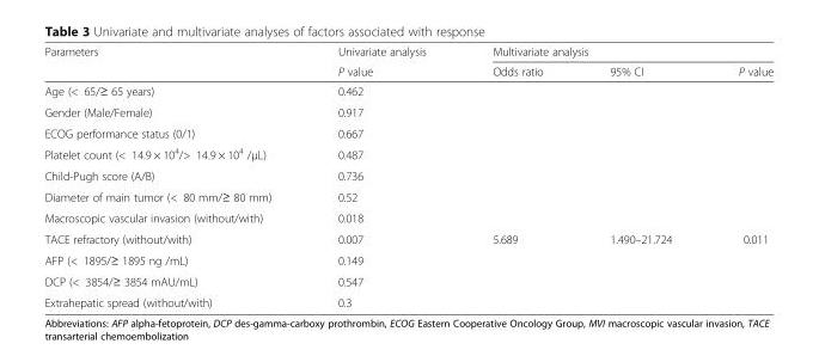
<table><thead><tr><td rowspan="2">Parameters</td><td rowspan="2">Univariate analysis P value</td><td colspan="3">Multivariate analysis</td></tr><tr><td>Odds ratio</td><td>95% CI</td><td>P value</td></tr></thead><tbody><tr><td>Age (&lt; 65/≥ 65 years)</td><td>0.462</td><td></td><td></td><td></td></tr><tr><td>Gender (Male/Female)</td><td>0.917</td><td></td><td></td><td></td></tr><tr><td>ECOG performance status (0/1)</td><td>0.667</td><td></td><td></td><td></td></tr><tr><td>Platelet count (&lt; 14.9 × 10<sup>4</sup>/&gt; 14.9 × 10<sup>4</sup> /μL)</td><td>0.487</td><td></td><td></td><td></td></tr><tr><td>Child-Pugh score (A/B)</td><td>0.736</td><td></td><td></td><td></td></tr><tr><td>Diameter of main tumor (&lt; 80 mm/≥ 80 mm)</td><td>0.52</td><td></td><td></td><td></td></tr><tr><td>Macroscopic vascular invasion (without/with)</td><td>0.018</td><td></td><td></td><td></td></tr><tr><td>TACE refractory (without/with)</td><td>0.007</td><td>5.689</td><td>1.490–21.724</td><td>0.011</td></tr><tr><td>AFP (&lt; 1895/≥ 1895 ng /mL)</td><td>0.149</td><td></td><td></td><td></td></tr><tr><td>DCP (&lt; 3854/≥ 3854 mAU/mL)</td><td>0.547</td><td></td><td></td><td></td></tr><tr><td>Extrahepatic spread (without/with)</td><td>0.3</td><td></td><td></td><td></td></tr></tbody></table>